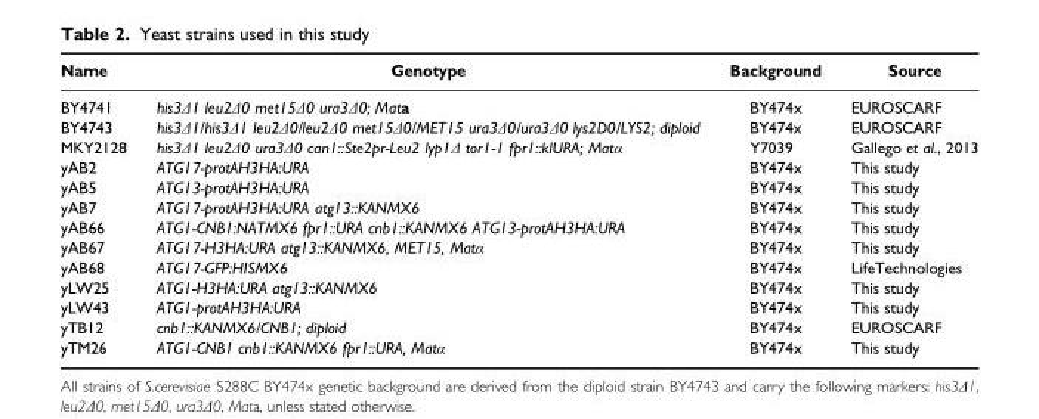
<table><thead><tr><td>Name</td><td>Genotype</td><td>Background</td><td>Source</td></tr></thead><tbody><tr><td>BY4741</td><td>his3Δ1 leu2Δ0 met15Δ0 ura3Δ0; Mata</td><td>BY474x</td><td>EUROSCARF</td></tr><tr><td>BY4743</td><td>his3Δ1/his3Δ1 leu2Δ0/leu2Δ0 met15Δ0/MET15 ura3Δ0/ura3Δ0 lys2D0/LYS2; diploid</td><td>BY474x</td><td>EUROSCARF</td></tr><tr><td>MKY2128</td><td>his3Δ1 leu2Δ0 ura3Δ0 can1::Ste2pr-Leu2 lyp1Δ tor1-1 fpr1::klURA; Matα</td><td>Y7039</td><td>Gallego et al., 2013</td></tr><tr><td>yAB2</td><td>ATG17-protAH3HA:URA</td><td>BY474x</td><td>This study</td></tr><tr><td>yAB5</td><td>ATG13-protAH3HA:URA</td><td>BY474x</td><td>This study</td></tr><tr><td>yAB7</td><td>ATG17-protAH3HA:URA atg13::KANMX6</td><td>BY474x</td><td>This study</td></tr><tr><td>yAB66</td><td>ATG1-CNB1:NATMX6 fpr1::URA cnb1::KANMX6 ATG13-protAH3HA:URA</td><td>BY474x</td><td>This study</td></tr><tr><td>yAB67</td><td>ATG17-H3HA:URA atg13::KANMX6, MET15, Matα</td><td>BY474x</td><td>This study</td></tr><tr><td>yAB68</td><td>ATG17-GFP:HISMX6</td><td>BY474x</td><td>LifeTechnologies</td></tr><tr><td>yLW25</td><td>ATG1-H3HA:URA atg13::KANMX6</td><td>BY474x</td><td>This study</td></tr><tr><td>yLW43</td><td>ATG1-protAH3HA:URA</td><td>BY474x</td><td>This study</td></tr><tr><td>yTB12</td><td>cnb1::KANMX6/CNB1; diploid</td><td>BY474x</td><td>EUROSCARF</td></tr><tr><td>yTM26</td><td>ATG1-CNB1 cnb1::KANMX6 fpr1::URA, Matα</td><td>BY474x</td><td>This study</td></tr></tbody></table>